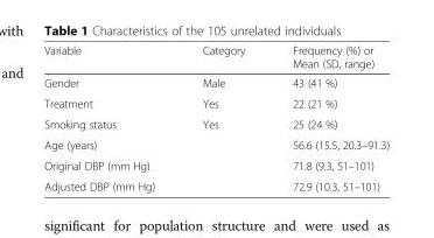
<table><thead><tr><td>Variable</td><td>Category</td><td>Frequency (%) or Mean (SD, range)</td></tr></thead><tbody><tr><td>Gender</td><td>Male</td><td>43 (41 %)</td></tr><tr><td>Treatment</td><td>Yes</td><td>22 (21 %)</td></tr><tr><td>Smoking status</td><td>Yes</td><td>25 (24 %)</td></tr><tr><td>Age (years)</td><td></td><td>56.6 (15.5, 20.3–91.3)</td></tr><tr><td>Original DBP (mm Hg)</td><td></td><td>71.8 (9.3, 51–101)</td></tr><tr><td>Adjusted DBP (mm Hg)</td><td></td><td>72.9 (10.3, 51–101)</td></tr></tbody></table>